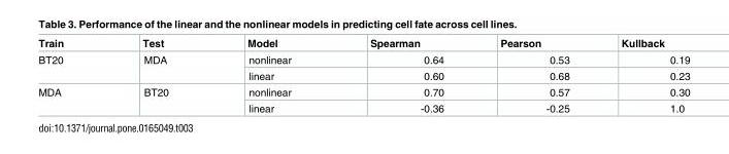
<table><thead><tr><td>Train</td><td>Test</td><td>Model</td><td>Spearman</td><td>Pearson</td><td>Kullback</td></tr></thead><tbody><tr><td rowspan="2">BT20</td><td rowspan="2">MDA</td><td>nonlinear</td><td>0.64</td><td>0.53</td><td>0.19</td></tr><tr><td>linear</td><td>0.60</td><td>0.68</td><td>0.23</td></tr><tr><td rowspan="2">MDA</td><td rowspan="2">BT20</td><td>nonlinear</td><td>0.70</td><td>0.57</td><td>0.30</td></tr><tr><td>linear</td><td>-0.36</td><td>-0.25</td><td>1.0</td></tr></tbody></table>